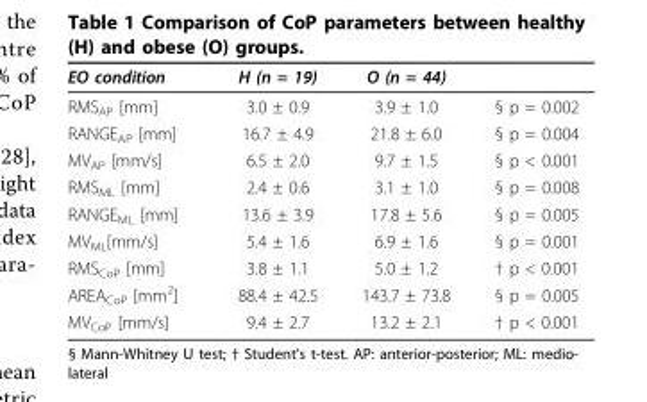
<table><thead><tr><td>EO condition</td><td>H (n = 19)</td><td>O (n = 44)</td><td></td></tr></thead><tbody><tr><td>RMS<sub>AP</sub> [mm]</td><td>3.0 ± 0.9</td><td>3.9 ± 1.0</td><td>§ p = 0.002</td></tr><tr><td>RANGE<sub>AP</sub> [mm]</td><td>16.7 ± 4.9</td><td>21.8 ± 6.0</td><td>§ p = 0.004</td></tr><tr><td>MV<sub>AP</sub> [mm/s]</td><td>6.5 ± 2.0</td><td>9.7 ± 1.5</td><td>§ p &lt; 0.001</td></tr><tr><td>RMS<sub>ML</sub> [mm]</td><td>2.4 ± 0.6</td><td>3.1 ± 1.0</td><td>§ p = 0.008</td></tr><tr><td>RANGE<sub>ML</sub> [mm]</td><td>13.6 ± 3.9</td><td>17.8 ± 5.6</td><td>§ p = 0.005</td></tr><tr><td>MV<sub>ML</sub>[mm/s]</td><td>5.4 ± 1.6</td><td>6.9 ± 1.6</td><td>§ p = 0.001</td></tr><tr><td>RMS<sub>CoP</sub> [mm]</td><td>3.8 ± 1.1</td><td>5.0 ± 1.2</td><td>† p &lt; 0.001</td></tr><tr><td>AREA<sub>CoP</sub> [mm<sup>2</sup>]</td><td>88.4 ± 42.5</td><td>143.7 ± 73.8</td><td>§ p = 0.005</td></tr><tr><td>MV<sub>CoP</sub> [mm/s]</td><td>9.4 ± 2.7</td><td>13.2 ± 2.1</td><td>† p &lt; 0.001</td></tr></tbody></table>